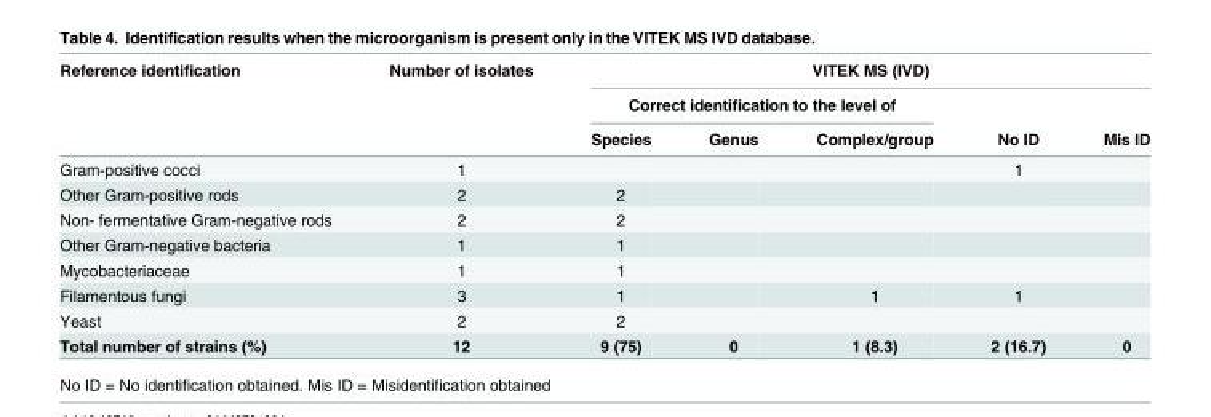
<table><thead><tr><td rowspan="3">Reference identification</td><td rowspan="3">Number of isolates</td><td colspan="5">VITEK MS (IVD)</td></tr><tr><td colspan="3">Correct identification to the level of</td><td rowspan="2">No ID</td><td rowspan="2">Mis ID</td></tr><tr><td>Species</td><td>Genus</td><td>Complex/group</td></tr></thead><tbody><tr><td>Gram-positive cocci</td><td>1</td><td></td><td></td><td></td><td>1</td><td></td></tr><tr><td>Other Gram-positive rods</td><td>2</td><td>2</td><td></td><td></td><td></td><td></td></tr><tr><td>Non- fermentative Gram-negative rods</td><td>2</td><td>2</td><td></td><td></td><td></td><td></td></tr><tr><td>Other Gram-negative bacteria</td><td>1</td><td>1</td><td></td><td></td><td></td><td></td></tr><tr><td>Mycobacteriaceae</td><td>1</td><td>1</td><td></td><td></td><td></td><td></td></tr><tr><td>Filamentous fungi</td><td>3</td><td>1</td><td></td><td>1</td><td>1</td><td></td></tr><tr><td>Yeast</td><td>2</td><td>2</td><td></td><td></td><td></td><td></td></tr><tr><td>Total number of strains (%)</td><td>12</td><td>9 (75)</td><td>0</td><td>1 (8.3)</td><td>2 (16.7)</td><td>0</td></tr></tbody></table>